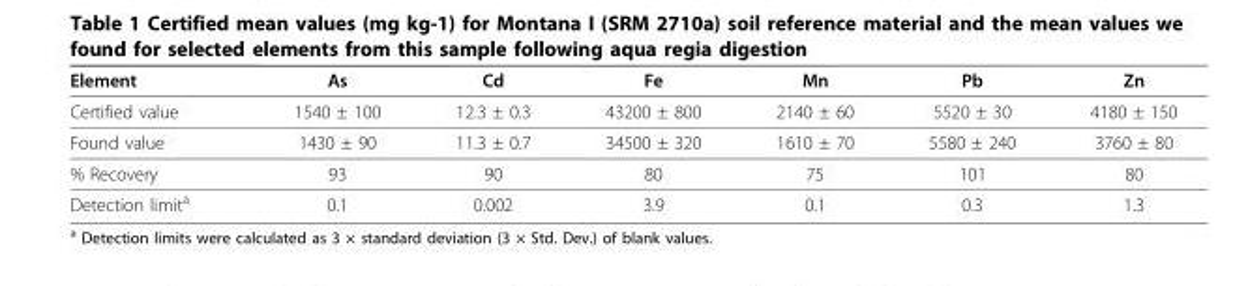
<table><thead><tr><td>Element</td><td>As</td><td>Cd</td><td>Fe</td><td>Mn</td><td>Pb</td><td>Zn</td></tr></thead><tbody><tr><td>Certified value</td><td>1540 ± 100</td><td>12.3 ± 0.3</td><td>43200 ± 800</td><td>2140 ± 60</td><td>5520 ± 30</td><td>4180 ± 150</td></tr><tr><td>Found value</td><td>1430 ± 90</td><td>11.3 ± 0.7</td><td>34500 ± 320</td><td>1610 ± 70</td><td>5580 ± 240</td><td>3760 ± 80</td></tr><tr><td>% Recovery</td><td>93</td><td>90</td><td>80</td><td>75</td><td>101</td><td>80</td></tr><tr><td>Detection limit<sup>a</sup></td><td>0.1</td><td>0.002</td><td>3.9</td><td>0.1</td><td>0.3</td><td>1.3</td></tr></tbody></table>